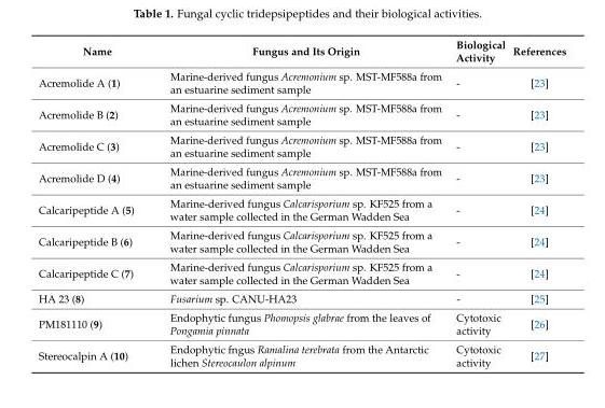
<table><thead><tr><td>Name</td><td>Fungus and Its Origin</td><td>Biological Activity</td><td>References</td></tr></thead><tbody><tr><td>Acremolide A (1)</td><td>Marine-derived fungus Acremonium sp. MST-MF588a from an estuarine sediment sample</td><td>-</td><td>[23]</td></tr><tr><td>Acremolide B (2)</td><td>Marine-derived fungus Acremonium sp. MST-MF588a from an estuarine sediment sample</td><td>-</td><td>[23]</td></tr><tr><td>Acremolide C (3)</td><td>Marine-derived fungus Acremonium sp. MST-MF588a from an estuarine sediment sample</td><td>-</td><td>[23]</td></tr><tr><td>Acremolide D (4)</td><td>Marine-derived fungus Acremonium sp. MST-MF588a from an estuarine sediment sample</td><td>-</td><td>[23]</td></tr><tr><td>Calcaripeptide A (5)</td><td>Marine-derived fungus Calcarisporium sp. KF525 from a water sample collected in the German Wadden Sea</td><td>-</td><td>[24]</td></tr><tr><td>Calcaripeptide B (6)</td><td>Marine-derived fungus Calcarisporium sp. KF525 from a water sample collected in the German Wadden Sea</td><td>-</td><td>[24]</td></tr><tr><td>Calcaripeptide C (7)</td><td>Marine-derived fungus Calcarisporium sp. KF525 from a water sample collected in the German Wadden Sea</td><td>-</td><td>[24]</td></tr><tr><td>HA 23 (8)</td><td>Fusarium sp. CANU-HA23</td><td>-</td><td>[25]</td></tr><tr><td>PM181110 (9)</td><td>Endophytic fungus Phomopsis glabrae from the leaves of Pongamia pinnata</td><td>Cytotoxic activity</td><td>[26]</td></tr><tr><td>Stereocalpin A (10)</td><td>Endophytic fngus Ramalina terebrata from the Antarctic lichen Stereocaulon alpinum</td><td>Cytotoxic activity</td><td>[27]</td></tr></tbody></table>